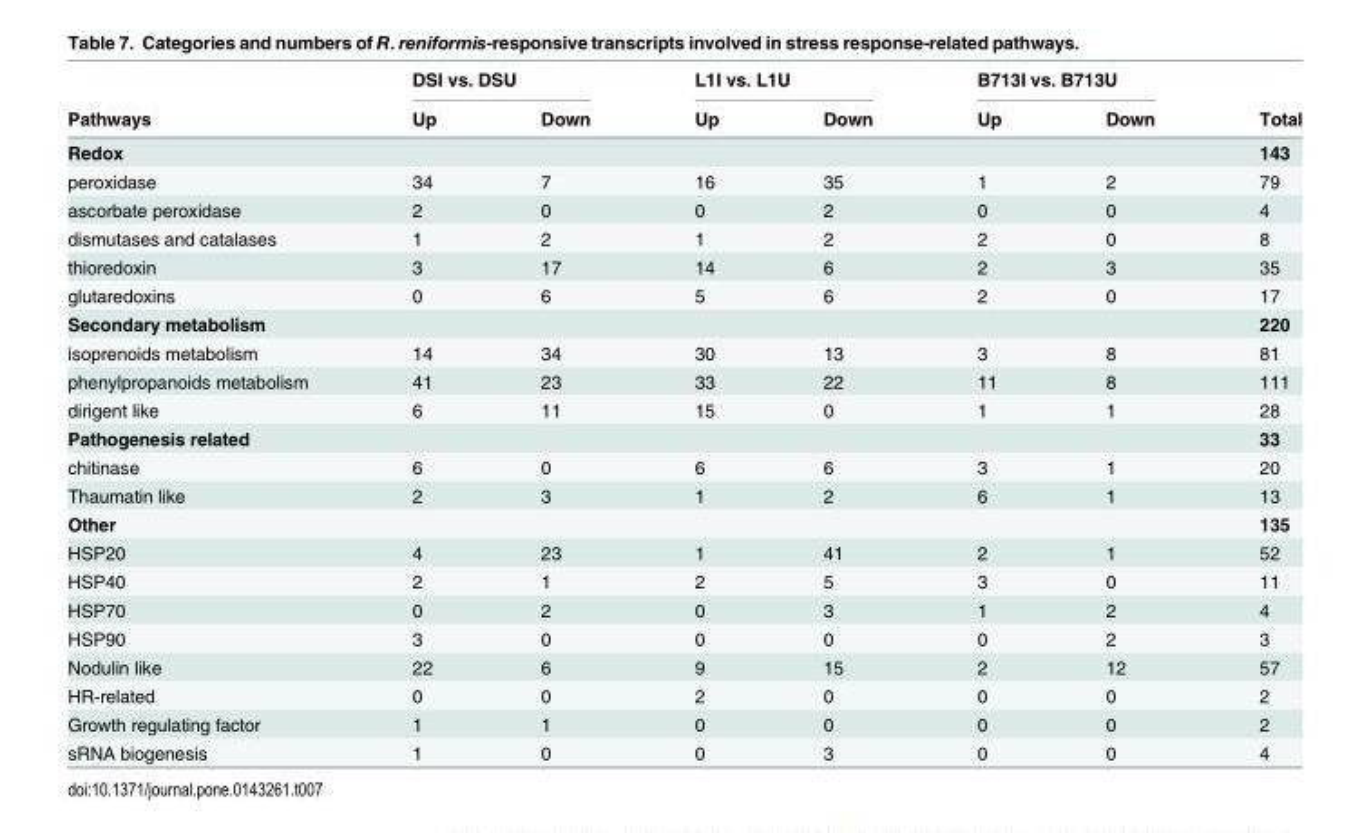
<table><thead><tr><td rowspan="2">Pathways</td><td colspan="2">DSI vs. DSU</td><td colspan="2">L1I vs. L1U</td><td colspan="2">B713I vs. B713U</td><td rowspan="2">Total</td></tr><tr><td>Up</td><td>Down</td><td>Up</td><td>Down</td><td>Up</td><td>Down</td></tr></thead><tbody><tr><td colspan="7">Redox</td><td>143</td></tr><tr><td>peroxidase</td><td>34</td><td>7</td><td>16</td><td>35</td><td>1</td><td>2</td><td>79</td></tr><tr><td>ascorbate peroxidase</td><td>2</td><td>0</td><td>0</td><td>2</td><td>0</td><td>0</td><td>4</td></tr><tr><td>dismutases and catalases</td><td>1</td><td>2</td><td>1</td><td>2</td><td>2</td><td>0</td><td>8</td></tr><tr><td>thioredoxin</td><td>3</td><td>17</td><td>14</td><td>6</td><td>2</td><td>3</td><td>35</td></tr><tr><td>glutaredoxins</td><td>0</td><td>6</td><td>5</td><td>6</td><td>2</td><td>0</td><td>17</td></tr><tr><td colspan="7">Secondary metabolism</td><td>220</td></tr><tr><td>isoprenoids metabolism</td><td>14</td><td>34</td><td>30</td><td>13</td><td>3</td><td>8</td><td>81</td></tr><tr><td>phenylpropanoids metabolism</td><td>41</td><td>23</td><td>33</td><td>22</td><td>11</td><td>8</td><td>111</td></tr><tr><td>dirigent like</td><td>6</td><td>11</td><td>15</td><td>0</td><td>1</td><td>1</td><td>28</td></tr><tr><td colspan="7">Pathogenesis related</td><td>33</td></tr><tr><td>chitinase</td><td>6</td><td>0</td><td>6</td><td>6</td><td>3</td><td>1</td><td>20</td></tr><tr><td>Thaumatin like</td><td>2</td><td>3</td><td>1</td><td>2</td><td>6</td><td>1</td><td>13</td></tr><tr><td colspan="7">Other</td><td>135</td></tr><tr><td>HSP20</td><td>4</td><td>23</td><td>1</td><td>41</td><td>2</td><td>1</td><td>52</td></tr><tr><td>HSP40</td><td>2</td><td>1</td><td>2</td><td>5</td><td>3</td><td>0</td><td>11</td></tr><tr><td>HSP70</td><td>0</td><td>2</td><td>0</td><td>3</td><td>1</td><td>2</td><td>4</td></tr><tr><td>HSP90</td><td>3</td><td>0</td><td>0</td><td>0</td><td>0</td><td>2</td><td>3</td></tr><tr><td>Nodulin like</td><td>22</td><td>6</td><td>9</td><td>15</td><td>2</td><td>12</td><td>57</td></tr><tr><td>HR-related</td><td>0</td><td>0</td><td>2</td><td>0</td><td>0</td><td>0</td><td>2</td></tr><tr><td>Growth regulating factor</td><td>1</td><td>1</td><td>0</td><td>0</td><td>0</td><td>0</td><td>2</td></tr><tr><td>sRNA biogenesis</td><td>1</td><td>0</td><td>0</td><td>3</td><td>0</td><td>0</td><td>4</td></tr></tbody></table>